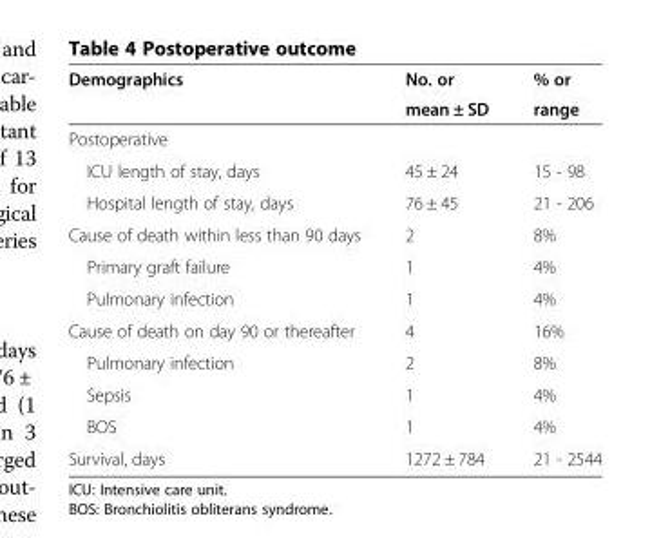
<table><thead><tr><td rowspan="2">Demographics</td><td rowspan="2">No. or mean ± SD</td><td rowspan="2">% or range</td></tr><tr></tr></thead><tbody><tr><td colspan="3">Postoperative</td></tr><tr><td>ICU length of stay, days</td><td>45 ± 24</td><td>15 - 98</td></tr><tr><td>Hospital length of stay, days</td><td>76 ± 45</td><td>21 - 206</td></tr><tr><td>Cause of death within less than 90 days</td><td>2</td><td>8%</td></tr><tr><td>Primary graft failure</td><td>1</td><td>4%</td></tr><tr><td>Pulmonary infection</td><td>1</td><td>4%</td></tr><tr><td>Cause of death on day 90 or thereafter</td><td>4</td><td>16%</td></tr><tr><td>Pulmonary infection</td><td>2</td><td>8%</td></tr><tr><td>Sepsis</td><td>1</td><td>4%</td></tr><tr><td>BOS</td><td>1</td><td>4%</td></tr><tr><td>Survival, days</td><td>1272 ± 784</td><td>21 - 2544</td></tr></tbody></table>